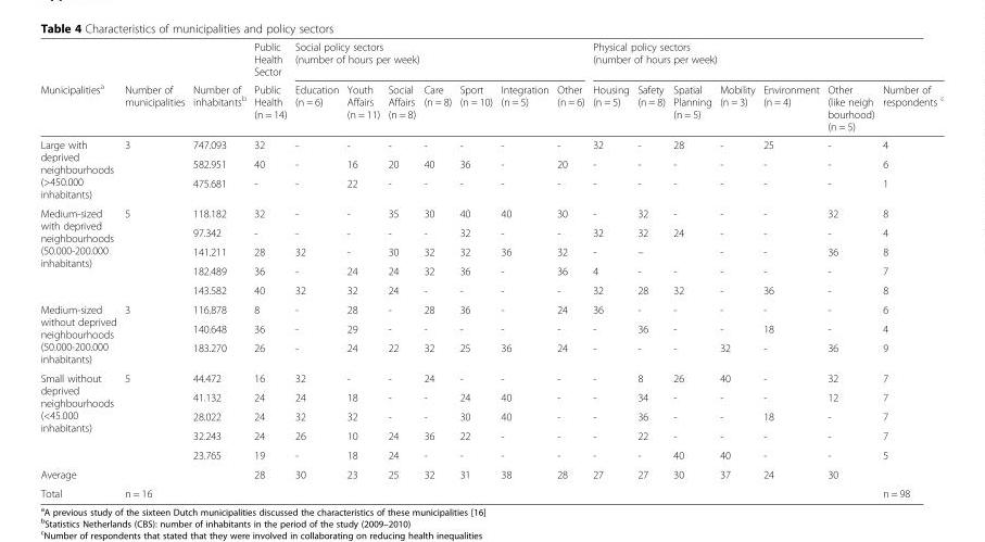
<table><thead><tr><td rowspan="2">Municipalities<sup>a</sup></td><td rowspan="2">Number of municipalities</td><td rowspan="2">Number of inhabitants<sup>b</sup></td><td rowspan="2">Public Health Sector Public Health (n = 14)</td><td colspan="7">Social policy sectors (number of hours per week)</td><td colspan="7">Physical policy sectors (number of hours per week)</td></tr><tr><td>Education (n = 6)</td><td>Youth Affairs (n = 11)</td><td>Social Affairs (n = 8)</td><td>Care (n = 8)</td><td>Sport (n = 10)</td><td>Integration (n = 5)</td><td>Other (n = 6)</td><td>Housing (n = 5)</td><td>Safety (n = 8)</td><td>Spatial Planning (n = 5)</td><td>Mobility (n = 3)</td><td>Environment (n = 4)</td><td>Other (like neigh bourhood) (n = 5)</td><td>Number of respondents <sup>c</sup></td></tr></thead><tbody><tr><td rowspan="3">Large with deprived neighbourhoods (&gt;450.000 inhabitants)</td><td>3</td><td>747.093</td><td>32</td><td>-</td><td>-</td><td>-</td><td>-</td><td>-</td><td>-</td><td>-</td><td>32</td><td>-</td><td>28</td><td>-</td><td>25</td><td>-</td><td>4</td></tr><tr><td></td><td>582.951</td><td>40</td><td>-</td><td>16</td><td>20</td><td>40</td><td>36</td><td>-</td><td>20</td><td>-</td><td>-</td><td>-</td><td>-</td><td>-</td><td>-</td><td>6</td></tr><tr><td></td><td>475.681</td><td>-</td><td>-</td><td>22</td><td>-</td><td>-</td><td>-</td><td>-</td><td>-</td><td>-</td><td>-</td><td>-</td><td>-</td><td>-</td><td>-</td><td>1</td></tr><tr><td rowspan="5">Medium-sized with deprived neighbourhoods (50.000-200.000 inhabitants)</td><td>5</td><td>118.182</td><td>32</td><td>-</td><td>-</td><td>35</td><td>30</td><td>40</td><td>40</td><td>30</td><td>-</td><td>32</td><td>-</td><td>-</td><td>-</td><td>32</td><td>8</td></tr><tr><td></td><td>97.342</td><td>-</td><td>-</td><td>-</td><td>-</td><td>-</td><td>32</td><td>-</td><td>-</td><td>32</td><td>32</td><td>24</td><td>-</td><td>-</td><td>-</td><td>4</td></tr><tr><td></td><td>141.211</td><td>28</td><td>32</td><td>-</td><td>30</td><td>32</td><td>32</td><td>36</td><td>32</td><td>-</td><td>–</td><td></td><td>-</td><td>-</td><td>36</td><td>8</td></tr><tr><td></td><td>182.489</td><td>36</td><td>-</td><td>24</td><td>24</td><td>32</td><td>36</td><td>-</td><td>36</td><td>4</td><td>-</td><td>-</td><td>-</td><td>-</td><td>-</td><td>7</td></tr><tr><td></td><td>143.582</td><td>40</td><td>32</td><td>32</td><td>24</td><td>-</td><td>-</td><td>-</td><td>-</td><td>32</td><td>28</td><td>32</td><td>-</td><td>36</td><td>-</td><td>8</td></tr><tr><td rowspan="3">Medium-sized without deprived neighbourhoods (50.000-200.000 inhabitants)</td><td>3</td><td>116.878</td><td>8</td><td>-</td><td>28</td><td>-</td><td>28</td><td>36</td><td>-</td><td>24</td><td>36</td><td>-</td><td>-</td><td>-</td><td>-</td><td>-</td><td>6</td></tr><tr><td></td><td>140.648</td><td>36</td><td>-</td><td>29</td><td>-</td><td>-</td><td>-</td><td>-</td><td>-</td><td>-</td><td>36</td><td>-</td><td>-</td><td>18</td><td>-</td><td>4</td></tr><tr><td></td><td>183.270</td><td>26</td><td>-</td><td>24</td><td>22</td><td>32</td><td>25</td><td>36</td><td>24</td><td>-</td><td>-</td><td>-</td><td>32</td><td>-</td><td>36</td><td>9</td></tr><tr><td rowspan="5">Small without deprived neighbourhoods (&lt;45.000 inhabitants)</td><td>5</td><td>44.472</td><td>16</td><td>32</td><td>-</td><td>-</td><td>24</td><td>-</td><td>-</td><td>-</td><td>-</td><td>8</td><td>26</td><td>40</td><td>-</td><td>32</td><td>7</td></tr><tr><td></td><td>41.132</td><td>24</td><td>24</td><td>18</td><td>-</td><td>-</td><td>24</td><td>40</td><td>-</td><td>-</td><td>34</td><td>-</td><td>-</td><td>-</td><td>12</td><td>7</td></tr><tr><td></td><td>28.022</td><td>24</td><td>32</td><td>32</td><td>-</td><td>-</td><td>30</td><td>40</td><td>-</td><td>-</td><td>36</td><td>-</td><td>-</td><td>18</td><td>-</td><td>7</td></tr><tr><td></td><td>32.243</td><td>24</td><td>26</td><td>10</td><td>24</td><td>36</td><td>22</td><td>-</td><td>-</td><td>-</td><td>22</td><td>-</td><td>-</td><td>-</td><td>-</td><td>7</td></tr><tr><td></td><td>23.765</td><td>19</td><td>-</td><td>18</td><td>24</td><td>-</td><td>-</td><td>-</td><td>-</td><td>-</td><td>-</td><td>40</td><td>40</td><td>-</td><td>-</td><td>5</td></tr><tr><td>Average</td><td></td><td></td><td>28</td><td>30</td><td>23</td><td>25</td><td>32</td><td>31</td><td>38</td><td>28</td><td>27</td><td>27</td><td>30</td><td>37</td><td>24</td><td>30</td><td></td></tr><tr><td>Total</td><td>n = 16</td><td></td><td></td><td></td><td></td><td></td><td></td><td></td><td></td><td></td><td></td><td></td><td></td><td></td><td></td><td></td><td>n = 98</td></tr></tbody></table>